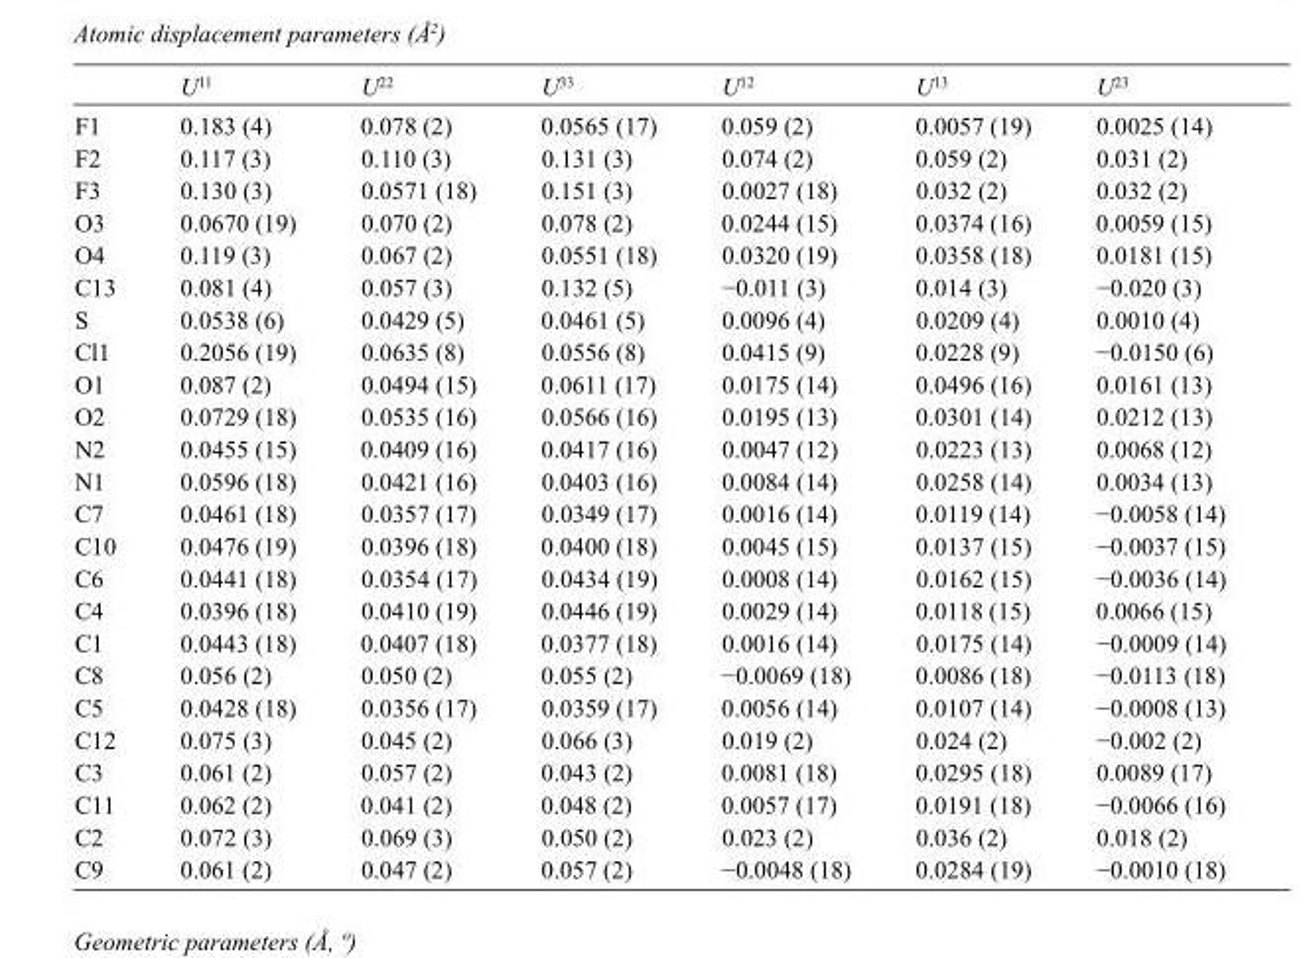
<table><thead><tr><td></td><td>U<sup>11</sup></td><td>U<sup>22</sup></td><td>U<sup>33</sup></td><td>U<sup>12</sup></td><td>U<sup>13</sup></td><td>U<sup>23</sup></td></tr></thead><tbody><tr><td>F1</td><td>0.183 (4)</td><td>0.078 (2)</td><td>0.0565 (17)</td><td>0.059 (2)</td><td>0.0057 (19)</td><td>0.0025 (14)</td></tr><tr><td>F2</td><td>0.117 (3)</td><td>0.110 (3)</td><td>0.131 (3)</td><td>0.074 (2)</td><td>0.059 (2)</td><td>0.031 (2)</td></tr><tr><td>F3</td><td>0.130 (3)</td><td>0.0571 (18)</td><td>0.151 (3)</td><td>0.0027 (18)</td><td>0.032 (2)</td><td>0.032 (2)</td></tr><tr><td>O3</td><td>0.0670 (19)</td><td>0.070 (2)</td><td>0.078 (2)</td><td>0.0244 (15)</td><td>0.0374 (16)</td><td>0.0059 (15)</td></tr><tr><td>O4</td><td>0.119 (3)</td><td>0.067 (2)</td><td>0.0551 (18)</td><td>0.0320 (19)</td><td>0.0358 (18)</td><td>0.0181 (15)</td></tr><tr><td>C13</td><td>0.081 (4)</td><td>0.057 (3)</td><td>0.132 (5)</td><td>−0.011 (3)</td><td>0.014 (3)</td><td>−0.020 (3)</td></tr><tr><td>S</td><td>0.0538 (6)</td><td>0.0429 (5)</td><td>0.0461 (5)</td><td>0.0096 (4)</td><td>0.0209 (4)</td><td>0.0010 (4)</td></tr><tr><td>Cl1</td><td>0.2056 (19)</td><td>0.0635 (8)</td><td>0.0556 (8)</td><td>0.0415 (9)</td><td>0.0228 (9)</td><td>−0.0150 (6)</td></tr><tr><td>O1</td><td>0.087 (2)</td><td>0.0494 (15)</td><td>0.0611 (17)</td><td>0.0175 (14)</td><td>0.0496 (16)</td><td>0.0161 (13)</td></tr><tr><td>O2</td><td>0.0729 (18)</td><td>0.0535 (16)</td><td>0.0566 (16)</td><td>0.0195 (13)</td><td>0.0301 (14)</td><td>0.0212 (13)</td></tr><tr><td>N2</td><td>0.0455 (15)</td><td>0.0409 (16)</td><td>0.0417 (16)</td><td>0.0047 (12)</td><td>0.0223 (13)</td><td>0.0068 (12)</td></tr><tr><td>N1</td><td>0.0596 (18)</td><td>0.0421 (16)</td><td>0.0403 (16)</td><td>0.0084 (14)</td><td>0.0258 (14)</td><td>0.0034 (13)</td></tr><tr><td>C7</td><td>0.0461 (18)</td><td>0.0357 (17)</td><td>0.0349 (17)</td><td>0.0016 (14)</td><td>0.0119 (14)</td><td>−0.0058 (14)</td></tr><tr><td>C10</td><td>0.0476 (19)</td><td>0.0396 (18)</td><td>0.0400 (18)</td><td>0.0045 (15)</td><td>0.0137 (15)</td><td>−0.0037 (15)</td></tr><tr><td>C6</td><td>0.0441 (18)</td><td>0.0354 (17)</td><td>0.0434 (19)</td><td>0.0008 (14)</td><td>0.0162 (15)</td><td>−0.0036 (14)</td></tr><tr><td>C4</td><td>0.0396 (18)</td><td>0.0410 (19)</td><td>0.0446 (19)</td><td>0.0029 (14)</td><td>0.0118 (15)</td><td>0.0066 (15)</td></tr><tr><td>C1</td><td>0.0443 (18)</td><td>0.0407 (18)</td><td>0.0377 (18)</td><td>0.0016 (14)</td><td>0.0175 (14)</td><td>−0.0009 (14)</td></tr><tr><td>C8</td><td>0.056 (2)</td><td>0.050 (2)</td><td>0.055 (2)</td><td>−0.0069 (18)</td><td>0.0086 (18)</td><td>−0.0113 (18)</td></tr><tr><td>C5</td><td>0.0428 (18)</td><td>0.0356 (17)</td><td>0.0359 (17)</td><td>0.0056 (14)</td><td>0.0107 (14)</td><td>−0.0008 (13)</td></tr><tr><td>C12</td><td>0.075 (3)</td><td>0.045 (2)</td><td>0.066 (3)</td><td>0.019 (2)</td><td>0.024 (2)</td><td>−0.002 (2)</td></tr><tr><td>C3</td><td>0.061 (2)</td><td>0.057 (2)</td><td>0.043 (2)</td><td>0.0081 (18)</td><td>0.0295 (18)</td><td>0.0089 (17)</td></tr><tr><td>C11</td><td>0.062 (2)</td><td>0.041 (2)</td><td>0.048 (2)</td><td>0.0057 (17)</td><td>0.0191 (18)</td><td>−0.0066 (16)</td></tr><tr><td>C2</td><td>0.072 (3)</td><td>0.069 (3)</td><td>0.050 (2)</td><td>0.023 (2)</td><td>0.036 (2)</td><td>0.018 (2)</td></tr><tr><td>C9</td><td>0.061 (2)</td><td>0.047 (2)</td><td>0.057 (2)</td><td>−0.0048 (18)</td><td>0.0284 (19)</td><td>−0.0010 (18)</td></tr></tbody></table>